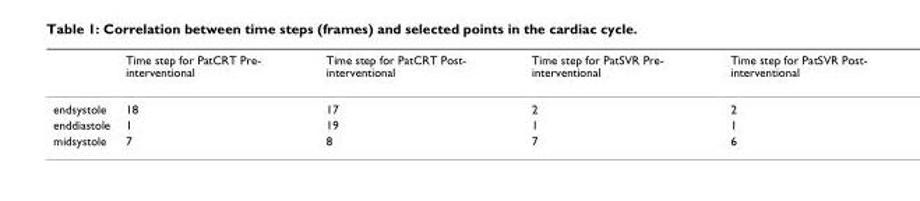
<table><thead><tr><td></td><td>Time step for PatCRT Pre- interventional</td><td>Time step for PatCRT Post- interventional</td><td>Time step for PatSVR Pre- interventional</td><td>Time step for PatSVR Post- interventional</td></tr></thead><tbody><tr><td>endsystole</td><td>18</td><td>17</td><td>2</td><td>2</td></tr><tr><td>enddiastole</td><td>1</td><td>19</td><td>1</td><td>1</td></tr><tr><td>midsystole</td><td>7</td><td>8</td><td>7</td><td>6</td></tr></tbody></table>